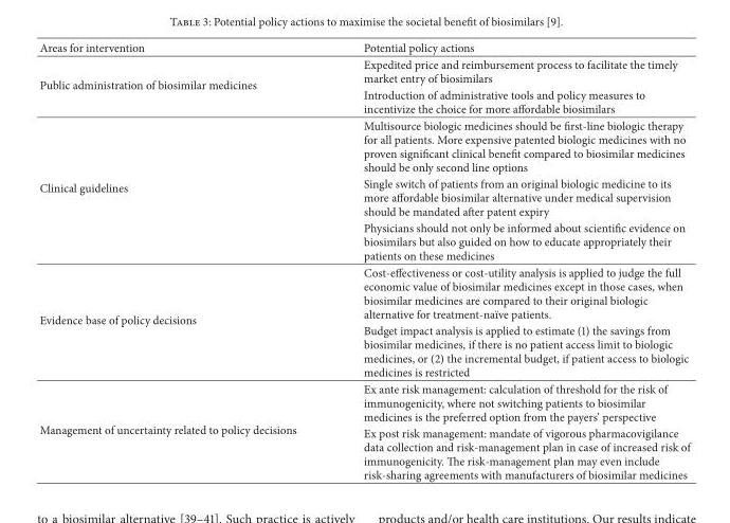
<table><thead><tr><td>Areas for intervention</td><td>Potential policy actions</td></tr></thead><tbody><tr><td rowspan="2">Public administration of biosimilar medicines</td><td>Expedited price and reimbursement process to facilitate the timely market entry of biosimilars</td></tr><tr><td>Introduction of administrative tools and policy measures to incentivize the choice for more affordable biosimilars</td></tr><tr><td rowspan="3">Clinical guidelines</td><td>Multisource biologic medicines should be first-line biologic therapy for all patients. More expensive patented biologic medicines with no proven significant clinical benefit compared to biosimilar medicines should be only second line options</td></tr><tr><td>Single switch of patients from an original biologic medicine to its more affordable biosimilar alternative under medical supervision should be mandated after patent expiry</td></tr><tr><td>Physicians should not only be informed about scientific evidence on biosimilars but also guided on how to educate appropriately their patients on these medicines</td></tr><tr><td rowspan="2">Evidence base of policy decisions</td><td>Cost-effectiveness or cost-utility analysis is applied to judge the full economic value of biosimilar medicines except in those cases, when biosimilar medicines are compared to their original biologic alternative for treatment-na¨ıve patients.</td></tr><tr><td>Budget impact analysis is applied to estimate (1) the savings from biosimilar medicines, if there is no patient access limit to biologic medicines, or (2) the incremental budget, if patient access to biologic medicines is restricted</td></tr><tr><td rowspan="2">Management of uncertainty related to policy decisions</td><td>Ex ante risk management: calculation of threshold for the risk of immunogenicity, where not switching patients to biosimilar medicines is the preferred option from the payers’ perspective</td></tr><tr><td>Ex post risk management: mandate of vigorous pharmacovigilance data collection and risk-management plan in case of increased risk of immunogenicity. The risk-management plan may even include risk-sharing agreements with manufacturers of biosimilar medicines</td></tr></tbody></table>